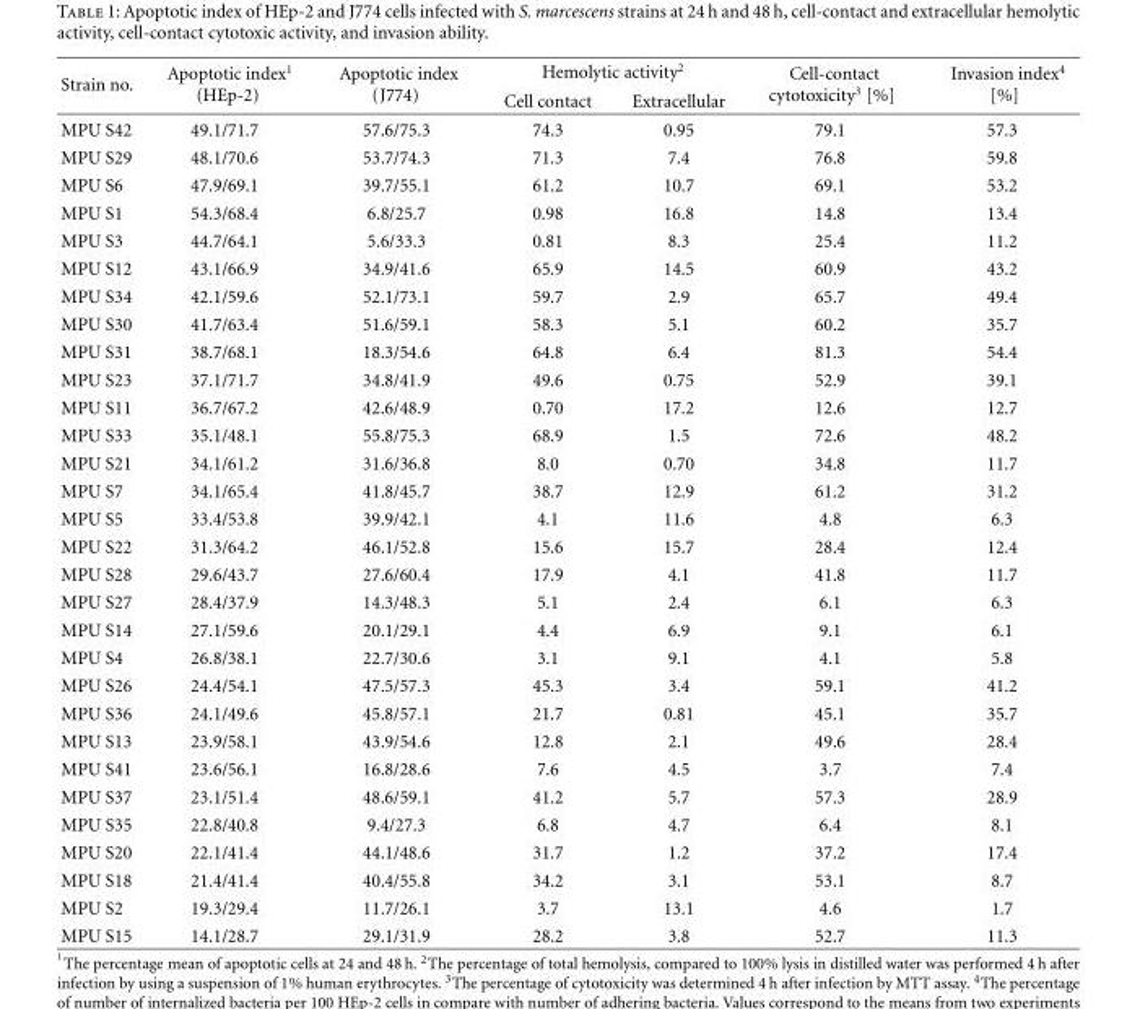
<table><thead><tr><td rowspan="2">Strain no.</td><td rowspan="2">Apoptotic index<sup>1</sup> (HEp-2)</td><td rowspan="2">Apoptotic index (J774)</td><td colspan="2">Hemolytic activity<sup>2</sup></td><td rowspan="2">Cell-contact cytotoxicity<sup>3</sup> [%]</td><td rowspan="2">Invasion index<sup>4</sup> [%]</td></tr><tr><td>Cell contact</td><td>Extracellular</td></tr></thead><tbody><tr><td>MPU S42</td><td>49.1/71.7</td><td>57.6/75.3</td><td>74.3</td><td>0.95</td><td>79.1</td><td>57.3</td></tr><tr><td>MPU S29</td><td>48.1/70.6</td><td>53.7/74.3</td><td>71.3</td><td>7.4</td><td>76.8</td><td>59.8</td></tr><tr><td>MPU S6</td><td>47.9/69.1</td><td>39.7/55.1</td><td>61.2</td><td>10.7</td><td>69.1</td><td>53.2</td></tr><tr><td>MPU S1</td><td>54.3/68.4</td><td>6.8/25.7</td><td>0.98</td><td>16.8</td><td>14.8</td><td>13.4</td></tr><tr><td>MPU S3</td><td>44.7/64.1</td><td>5.6/33.3</td><td>0.81</td><td>8.3</td><td>25.4</td><td>11.2</td></tr><tr><td>MPU S12</td><td>43.1/66.9</td><td>34.9/41.6</td><td>65.9</td><td>14.5</td><td>60.9</td><td>43.2</td></tr><tr><td>MPU S34</td><td>42.1/59.6</td><td>52.1/73.1</td><td>59.7</td><td>2.9</td><td>65.7</td><td>49.4</td></tr><tr><td>MPU S30</td><td>41.7/63.4</td><td>51.6/59.1</td><td>58.3</td><td>5.1</td><td>60.2</td><td>35.7</td></tr><tr><td>MPU S31</td><td>38.7/68.1</td><td>18.3/54.6</td><td>64.8</td><td>6.4</td><td>81.3</td><td>54.4</td></tr><tr><td>MPU S23</td><td>37.1/71.7</td><td>34.8/41.9</td><td>49.6</td><td>0.75</td><td>52.9</td><td>39.1</td></tr><tr><td>MPU S11</td><td>36.7/67.2</td><td>42.6/48.9</td><td>0.70</td><td>17.2</td><td>12.6</td><td>12.7</td></tr><tr><td>MPU S33</td><td>35.1/48.1</td><td>55.8/75.3</td><td>68.9</td><td>1.5</td><td>72.6</td><td>48.2</td></tr><tr><td>MPU S21</td><td>34.1/61.2</td><td>31.6/36.8</td><td>8.0</td><td>0.70</td><td>34.8</td><td>11.7</td></tr><tr><td>MPU S7</td><td>34.1/65.4</td><td>41.8/45.7</td><td>38.7</td><td>12.9</td><td>61.2</td><td>31.2</td></tr><tr><td>MPU S5</td><td>33.4/53.8</td><td>39.9/42.1</td><td>4.1</td><td>11.6</td><td>4.8</td><td>6.3</td></tr><tr><td>MPU S22</td><td>31.3/64.2</td><td>46.1/52.8</td><td>15.6</td><td>15.7</td><td>28.4</td><td>12.4</td></tr><tr><td>MPU S28</td><td>29.6/43.7</td><td>27.6/60.4</td><td>17.9</td><td>4.1</td><td>41.8</td><td>11.7</td></tr><tr><td>MPU S27</td><td>28.4/37.9</td><td>14.3/48.3</td><td>5.1</td><td>2.4</td><td>6.1</td><td>6.3</td></tr><tr><td>MPU S14</td><td>27.1/59.6</td><td>20.1/29.1</td><td>4.4</td><td>6.9</td><td>9.1</td><td>6.1</td></tr><tr><td>MPU S4</td><td>26.8/38.1</td><td>22.7/30.6</td><td>3.1</td><td>9.1</td><td>4.1</td><td>5.8</td></tr><tr><td>MPU S26</td><td>24.4/54.1</td><td>47.5/57.3</td><td>45.3</td><td>3.4</td><td>59.1</td><td>41.2</td></tr><tr><td>MPU S36</td><td>24.1/49.6</td><td>45.8/57.1</td><td>21.7</td><td>0.81</td><td>45.1</td><td>35.7</td></tr><tr><td>MPU S13</td><td>23.9/58.1</td><td>43.9/54.6</td><td>12.8</td><td>2.1</td><td>49.6</td><td>28.4</td></tr><tr><td>MPU S41</td><td>23.6/56.1</td><td>16.8/28.6</td><td>7.6</td><td>4.5</td><td>3.7</td><td>7.4</td></tr><tr><td>MPU S37</td><td>23.1/51.4</td><td>48.6/59.1</td><td>41.2</td><td>5.7</td><td>57.3</td><td>28.9</td></tr><tr><td>MPU S35</td><td>22.8/40.8</td><td>9.4/27.3</td><td>6.8</td><td>4.7</td><td>6.4</td><td>8.1</td></tr><tr><td>MPU S20</td><td>22.1/41.4</td><td>44.1/48.6</td><td>31.7</td><td>1.2</td><td>37.2</td><td>17.4</td></tr><tr><td>MPU S18</td><td>21.4/41.4</td><td>40.4/55.8</td><td>34.2</td><td>3.1</td><td>53.1</td><td>8.7</td></tr><tr><td>MPU S2</td><td>19.3/29.4</td><td>11.7/26.1</td><td>3.7</td><td>13.1</td><td>4.6</td><td>1.7</td></tr><tr><td>MPU S15</td><td>14.1/28.7</td><td>29.1/31.9</td><td>28.2</td><td>3.8</td><td>52.7</td><td>11.3</td></tr></tbody></table>